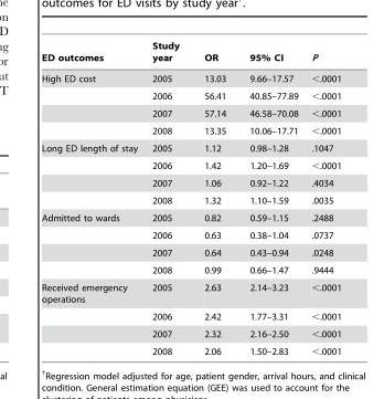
<table><thead><tr><td>ED outcomes</td><td>Study year</td><td>OR</td><td>95% CI</td><td>P</td></tr></thead><tbody><tr><td rowspan="4">High ED cost</td><td>2005</td><td>13.03</td><td>9.66–17.57</td><td>&lt;.0001</td></tr><tr><td>2006</td><td>56.41</td><td>40.85–77.89</td><td>&lt;.0001</td></tr><tr><td>2007</td><td>57.14</td><td>46.58–70.08</td><td>&lt;.0001</td></tr><tr><td>2008</td><td>13.35</td><td>10.06–17.71</td><td>&lt;.0001</td></tr><tr><td rowspan="4">Long ED length of stay</td><td>2005</td><td>1.12</td><td>0.98–1.28</td><td>.1047</td></tr><tr><td>2006</td><td>1.42</td><td>1.20–1.69</td><td>&lt;.0001</td></tr><tr><td>2007</td><td>1.06</td><td>0.92–1.22</td><td>.4034</td></tr><tr><td>2008</td><td>1.32</td><td>1.10–1.59</td><td>.0035</td></tr><tr><td rowspan="4">Admitted to wards</td><td>2005</td><td>0.82</td><td>0.59–1.15</td><td>.2488</td></tr><tr><td>2006</td><td>0.63</td><td>0.38–1.04</td><td>.0737</td></tr><tr><td>2007</td><td>0.64</td><td>0.43–0.94</td><td>.0248</td></tr><tr><td>2008</td><td>0.99</td><td>0.66–1.47</td><td>.9444</td></tr><tr><td rowspan="4">Received emergency operations</td><td>2005</td><td>2.63</td><td>2.14–3.23</td><td>&lt;.0001</td></tr><tr><td>2006</td><td>2.42</td><td>1.77–3.31</td><td>&lt;.0001</td></tr><tr><td>2007</td><td>2.32</td><td>2.16–2.50</td><td>&lt;.0001</td></tr><tr><td>2008</td><td>2.06</td><td>1.50–2.83</td><td>&lt;.0001</td></tr></tbody></table>